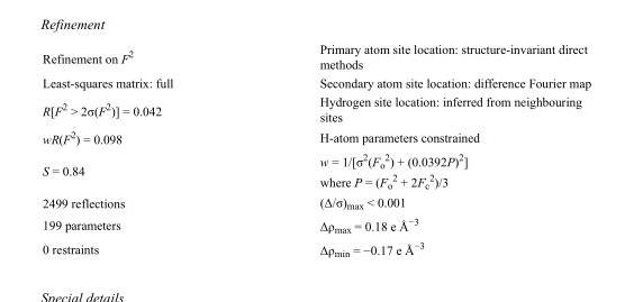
<table><tbody><tr><td>Refinement on F<sup>2</sup></td><td>Primary atom site location: structure-invariant direct methods</td></tr><tr><td>Least-squares matrix: full</td><td>Secondary atom site location: difference Fourier map</td></tr><tr><td>R[F<sup>2</sup> &gt; 2σ(F<sup>2</sup>)] = 0.042</td><td>Hydrogen site location: inferred from neighbouring sites</td></tr><tr><td>wR(F<sup>2</sup>) = 0.098</td><td>H-atom parameters constrained</td></tr><tr><td>S = 0.84</td><td>w = 1/[σ<sup>2</sup>(F<sub>o</sub> <sup>2</sup>) + (0.0392P)<sup>2</sup>] where P = (F<sub>o</sub> <sup>2</sup> + 2F<sub>c</sub> <sup>2</sup>)/3</td></tr><tr><td>2499 reflections</td><td>(Δ/σ)<sub>max</sub> &lt; 0.001</td></tr><tr><td>199 parameters</td><td>Δρ<sub>max</sub> = 0.18 e Å<sup>−3</sup></td></tr><tr><td>0 restraints</td><td>Δρ<sub>min</sub> = −0.17 e Å<sup>−3</sup></td></tr></tbody></table>